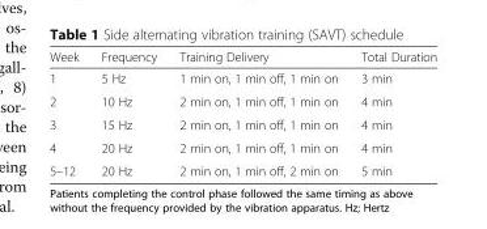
<table><thead><tr><td>Week</td><td>Frequency</td><td>Training Delivery</td><td>Total Duration</td></tr></thead><tbody><tr><td>1</td><td>5 Hz</td><td>1 min on, 1 min off, 1 min on</td><td>3 min</td></tr><tr><td>2</td><td>10 Hz</td><td>2 min on, 1 min off, 1 min on</td><td>4 min</td></tr><tr><td>3</td><td>15 Hz</td><td>2 min on, 1 min off, 1 min on</td><td>4 min</td></tr><tr><td>4</td><td>20 Hz</td><td>2 min on, 1 min off, 1 min on</td><td>4 min</td></tr><tr><td>5–12</td><td>20 Hz</td><td>2 min on, 1 min off, 2 min on</td><td>5 min</td></tr></tbody></table>